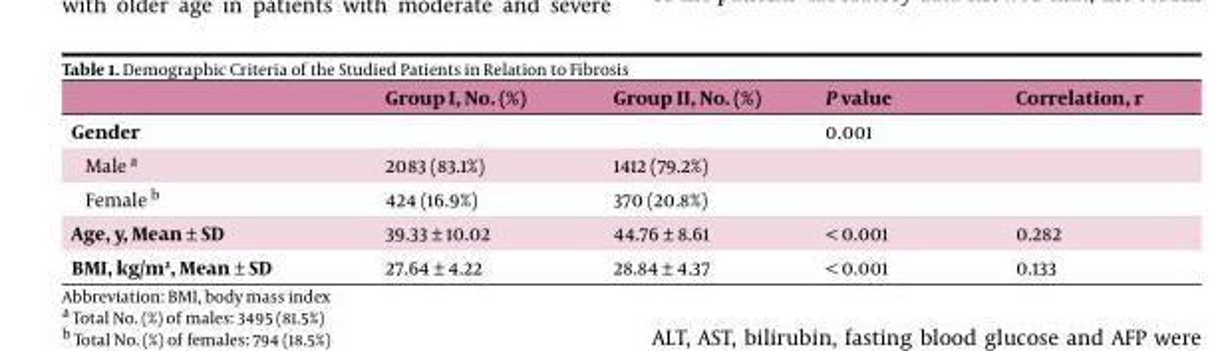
<table><thead><tr><td></td><td>Group I, No. (%)</td><td>Group II, No. (%)</td><td>P value</td><td>Correlation, r</td></tr></thead><tbody><tr><td>Gender</td><td></td><td></td><td>0.001</td><td></td></tr><tr><td>Male a</td><td>2083 (83.1%)</td><td>1412 (79.2%)</td><td></td><td></td></tr><tr><td>Female b</td><td>424 (16.9%)</td><td>370 (20.8%)</td><td></td><td></td></tr><tr><td>Age, y, Mean ± SD</td><td>39.33 ± 10.02</td><td>44.76 ± 8.61</td><td>&lt; 0.001</td><td>0.282</td></tr><tr><td>BMI, kg/m<sup>2</sup>, Mean ± SD</td><td>27.64 ± 4.22</td><td>28.84 ± 4.37</td><td>&lt; 0.001</td><td>0.133</td></tr></tbody></table>